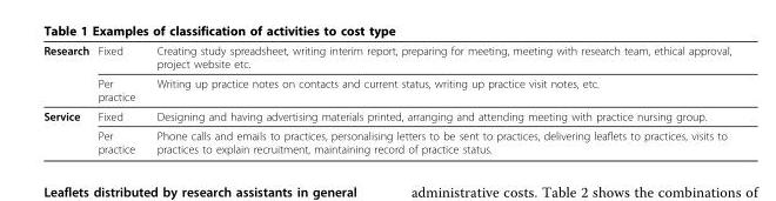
<table><thead><tr><td rowspan="2">Research</td><td rowspan="2">Fixed Per practice</td><td rowspan="2">Creating study spreadsheet, writing interim report, preparing for meeting, meeting with research team, ethical approval, project website etc. Writing up practice notes on contacts and current status, writing up practice visit notes, etc.</td></tr><tr></tr></thead><tbody><tr><td rowspan="2">Service</td><td>Fixed</td><td>Designing and having advertising materials printed, arranging and attending meeting with practice nursing group.</td></tr><tr><td>Per practice</td><td>Phone calls and emails to practices, personalising letters to be sent to practices, delivering leaflets to practices, visits to practices to explain recruitment, maintaining record of practice status.</td></tr></tbody></table>